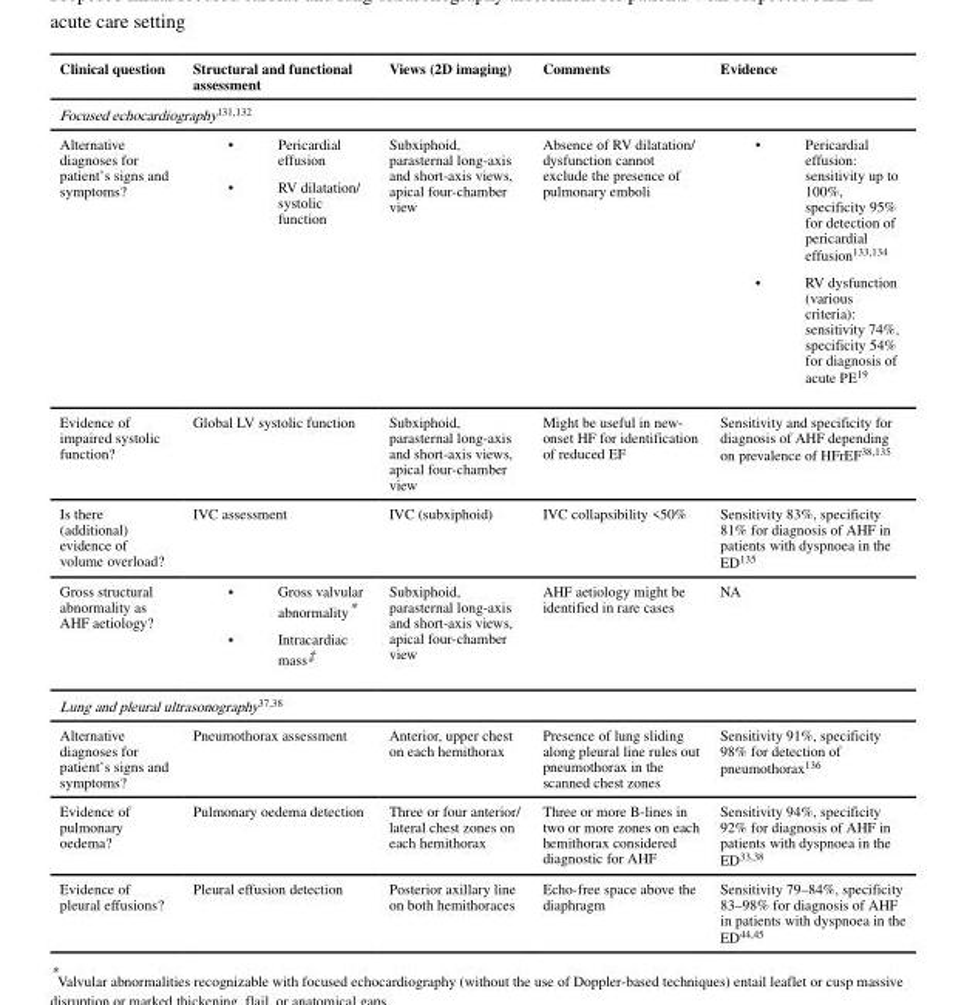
<table><thead><tr><td>Clinical question</td><td>Structural and functional assessment</td><td>Views (2D imaging)</td><td>Comments</td><td>Evidence</td></tr></thead><tbody><tr><td colspan="5">Focused echocardiography<sup>131,132</sup></td></tr><tr><td>Alternative diagnoses for patient’s signs and symptoms?</td><td>• Pericardial effusion • RV dilatation/ systolic function</td><td>Subxiphoid, parasternal long-axis and short-axis views, apical four-chamber view</td><td>Absence of RV dilatation/ dysfunction cannot exclude the presence of pulmonary emboli</td><td>• Pericardial effusion: sensitivity up to 100%, specificity 95% for detection of pericardial effusion133,134 • RV dysfunction (various criteria): sensitivity 74%, specificity 54% for diagnosis of acute PE19</td></tr><tr><td>Evidence of impaired systolic function?</td><td>Global LV systolic function</td><td>Subxiphoid, parasternal long-axis and short-axis views, apical four-chamber view</td><td>Might be useful in new- onset HF for identification of reduced EF</td><td>Sensitivity and specificity for diagnosis of AHF depending on prevalence of HFrEF<sup>38,135</sup></td></tr><tr><td>Is there (additional) evidence of volume overload?</td><td>IVC assessment</td><td>IVC (subxiphoid)</td><td>IVC collapsibility &lt;50%</td><td>Sensitivity 83%, specificity 81% for diagnosis of AHF in patients with dyspnoea in the ED<sup>135</sup></td></tr><tr><td>Gross structural abnormality as AHF aetiology?</td><td>• Gross valvular abnormality* • Intracardiac mass‡</td><td>Subxiphoid, parasternal long-axis and short-axis views, apical four-chamber view</td><td>AHF aetiology might be identified in rare cases</td><td>NA</td></tr><tr><td colspan="5">Lung and pleural ultrasonography<sup>37,38</sup></td></tr><tr><td>Alternative diagnoses for patient’s signs and symptoms?</td><td>Pneumothorax assessment</td><td>Anterior, upper chest on each hemithorax</td><td>Presence of lung sliding along pleural line rules out pneumothorax in the scanned chest zones</td><td>Sensitivity 91%, specificity 98% for detection of pneumothorax<sup>136</sup></td></tr><tr><td>Evidence of pulmonary oedema?</td><td>Pulmonary oedema detection</td><td>Three or four anterior/ lateral chest zones on each hemithorax</td><td>Three or more B-lines in two or more zones on each hemithorax considered diagnostic for AHF</td><td>Sensitivity 94%, specificity 92% for diagnosis of AHF in patients with dyspnoea in the ED<sup>33,38</sup></td></tr><tr><td>Evidence of pleural effusions?</td><td>Pleural effusion detection</td><td>Posterior axillary line on both hemithoraces</td><td>Echo-free space above the diaphragm</td><td>Sensitivity 79–84%, specificity 83–98% for diagnosis of AHF in patients with dyspnoea in the ED<sup>44,45</sup></td></tr></tbody></table>